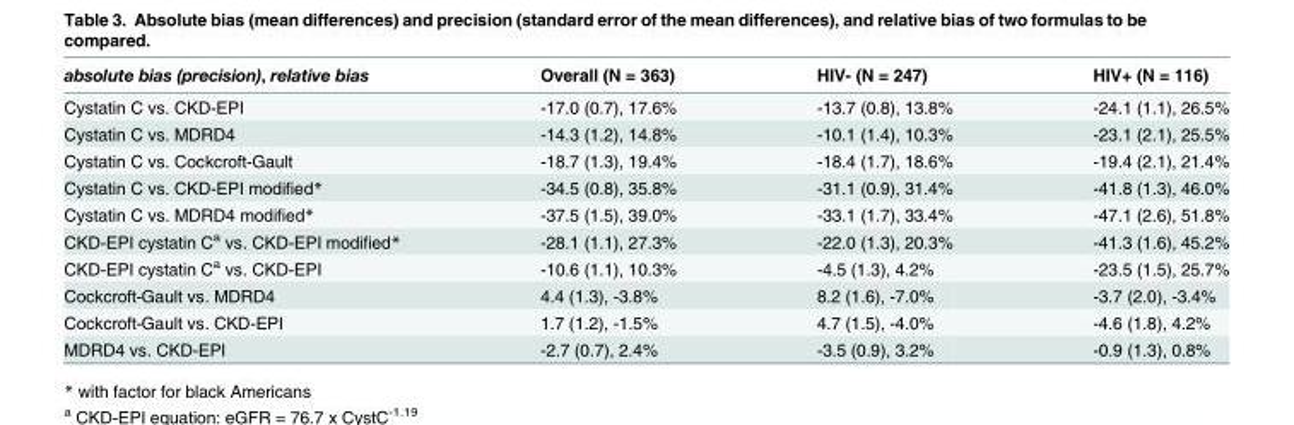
<table><thead><tr><td>absolute bias (precision), relative bias</td><td>Overall (N = 363)</td><td>HIV- (N = 247)</td><td>HIV+ (N = 116)</td></tr></thead><tbody><tr><td>Cystatin C vs. CKD-EPI</td><td>-17.0 (0.7), 17.6%</td><td>-13.7 (0.8), 13.8%</td><td>-24.1 (1.1), 26.5%</td></tr><tr><td>Cystatin C vs. MDRD4</td><td>-14.3 (1.2), 14.8%</td><td>-10.1 (1.4), 10.3%</td><td>-23.1 (2.1), 25.5%</td></tr><tr><td>Cystatin C vs. Cockcroft-Gault</td><td>-18.7 (1.3), 19.4%</td><td>-18.4 (1.7), 18.6%</td><td>-19.4 (2.1), 21.4%</td></tr><tr><td>Cystatin C vs. CKD-EPI modified*</td><td>-34.5 (0.8), 35.8%</td><td>-31.1 (0.9), 31.4%</td><td>-41.8 (1.3), 46.0%</td></tr><tr><td>Cystatin C vs. MDRD4 modified*</td><td>-37.5 (1.5), 39.0%</td><td>-33.1 (1.7), 33.4%</td><td>-47.1 (2.6), 51.8%</td></tr><tr><td>CKD-EPI cystatin C<sup>a</sup> vs. CKD-EPI modified*</td><td>-28.1 (1.1), 27.3%</td><td>-22.0 (1.3), 20.3%</td><td>-41.3 (1.6), 45.2%</td></tr><tr><td>CKD-EPI cystatin C<sup>a</sup> vs. CKD-EPI</td><td>-10.6 (1.1), 10.3%</td><td>-4.5 (1.3), 4.2%</td><td>-23.5 (1.5), 25.7%</td></tr><tr><td>Cockcroft-Gault vs. MDRD4</td><td>4.4 (1.3), -3.8%</td><td>8.2 (1.6), -7.0%</td><td>-3.7 (2.0), -3.4%</td></tr><tr><td>Cockcroft-Gault vs. CKD-EPI</td><td>1.7 (1.2), -1.5%</td><td>4.7 (1.5), -4.0%</td><td>-4.6 (1.8), 4.2%</td></tr><tr><td>MDRD4 vs. CKD-EPI</td><td>-2.7 (0.7), 2.4%</td><td>-3.5 (0.9), 3.2%</td><td>-0.9 (1.3), 0.8%</td></tr></tbody></table>